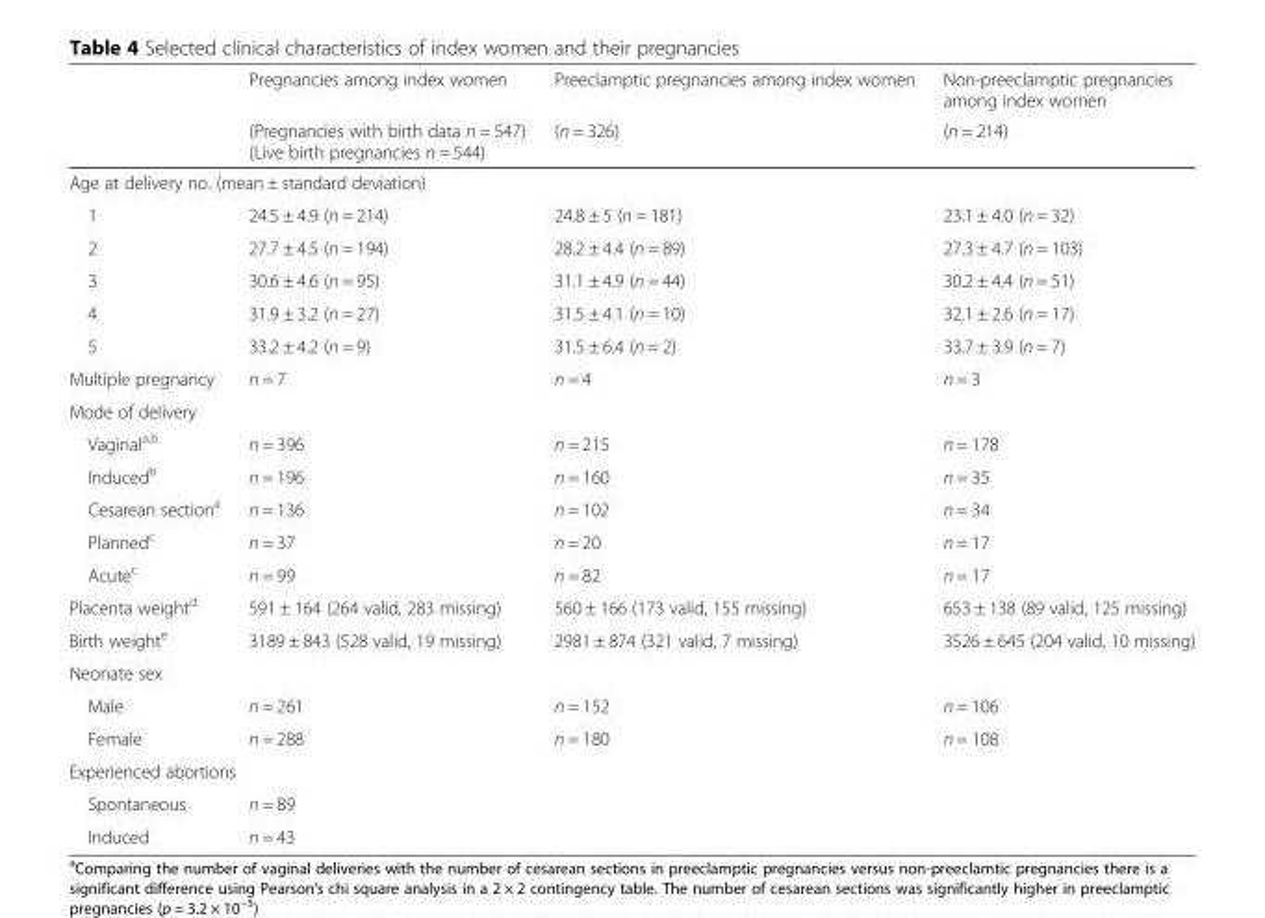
<table><thead><tr><td rowspan="2"></td><td rowspan="2">Pregnancies among index women (Pregnancies with birth data n = 547) (Live birth pregnancies n = 544)</td><td rowspan="2">Preeclamptic pregnancies among index women (n = 326)</td><td rowspan="2">Non-preeclamptic pregnancies among index women (n = 214)</td></tr><tr></tr></thead><tbody><tr><td colspan="4">Age at delivery no. (mean ± standard deviation)</td></tr><tr><td>1</td><td>24.5 ± 4.9 (n = 214)</td><td>24.8 ± 5 (n = 181)</td><td>23.1 ± 4.0 (n = 32)</td></tr><tr><td>2</td><td>27.7 ± 4.5 (n = 194)</td><td>28.2 ± 4.4 (n = 89)</td><td>27.3 ± 4.7 (n = 103)</td></tr><tr><td>3</td><td>30.6 ± 4.6 (n = 95)</td><td>31.1 ± 4.9 (n = 44)</td><td>30.2 ± 4.4 (n = 51)</td></tr><tr><td>4</td><td>31.9 ± 3.2 (n = 27)</td><td>31.5 ± 4.1 (n = 10)</td><td>32.1 ± 2.6 (n = 17)</td></tr><tr><td>5</td><td>33.2 ± 4.2 (n = 9)</td><td>31.5 ± 6.4 (n = 2)</td><td>33.7 ± 3.9 (n = 7)</td></tr><tr><td>Multiple pregnancy</td><td>n = 7</td><td>n = 4</td><td>n = 3</td></tr><tr><td colspan="4">Mode of delivery</td></tr><tr><td>Vaginal<sup>a,b</sup></td><td>n = 396</td><td>n = 215</td><td>n = 178</td></tr><tr><td>Induced<sup>b</sup></td><td>n = 196</td><td>n = 160</td><td>n = 35</td></tr><tr><td>Cesarean section<sup>a</sup></td><td>n = 136</td><td>n = 102</td><td>n = 34</td></tr><tr><td>Planned<sup>c</sup></td><td>n = 37</td><td>n = 20</td><td>n = 17</td></tr><tr><td>Acute<sup>c</sup></td><td>n = 99</td><td>n = 82</td><td>n = 17</td></tr><tr><td>Placenta weight<sup>d</sup></td><td>591 ± 164 (264 valid, 283 missing)</td><td>560 ± 166 (173 valid, 155 missing)</td><td>653 ± 138 (89 valid, 125 missing)</td></tr><tr><td>Birth weight<sup>e</sup></td><td>3189 ± 843 (528 valid, 19 missing)</td><td>2981 ± 874 (321 valid, 7 missing)</td><td>3526 ± 645 (204 valid, 10 missing)</td></tr><tr><td colspan="4">Neonate sex</td></tr><tr><td>Male</td><td>n = 261</td><td>n = 152</td><td>n = 106</td></tr><tr><td>Female</td><td>n = 288</td><td>n = 180</td><td>n = 108</td></tr><tr><td colspan="4">Experienced abortions</td></tr><tr><td>Spontaneous</td><td>n = 89</td><td></td><td></td></tr><tr><td>Induced</td><td>n = 43</td><td></td><td></td></tr></tbody></table>